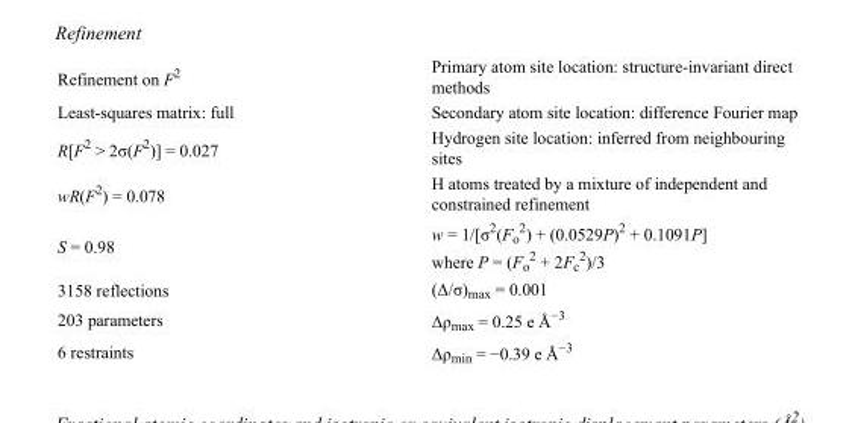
<table><tbody><tr><td>Refinement on F<sup>2</sup></td><td>Primary atom site location: structure-invariant direct methods</td></tr><tr><td>Least-squares matrix: full</td><td>Secondary atom site location: difference Fourier map</td></tr><tr><td>R[F<sup>2</sup> &gt; 2σ(F<sup>2</sup>)] = 0.027</td><td>Hydrogen site location: inferred from neighbouring sites</td></tr><tr><td>wR(F<sup>2</sup>) = 0.078</td><td>H atoms treated by a mixture of independent and constrained refinement</td></tr><tr><td>S = 0.98</td><td>w = 1/[σ<sup>2</sup>(F<sub>o</sub> <sup>2</sup>) + (0.0529P)<sup>2</sup> + 0.1091P] where P = (F<sub>o</sub> <sup>2</sup> + 2F<sub>c</sub> <sup>2</sup>)/3</td></tr><tr><td>3158 reflections</td><td>(Δ/σ)<sub>max</sub> = 0.001</td></tr><tr><td>203 parameters</td><td>Δρ<sub>max</sub> = 0.25 e Å<sup>−3</sup></td></tr><tr><td>6 restraints</td><td>Δρ<sub>min</sub> = −0.39 e Å<sup>−3</sup></td></tr></tbody></table>